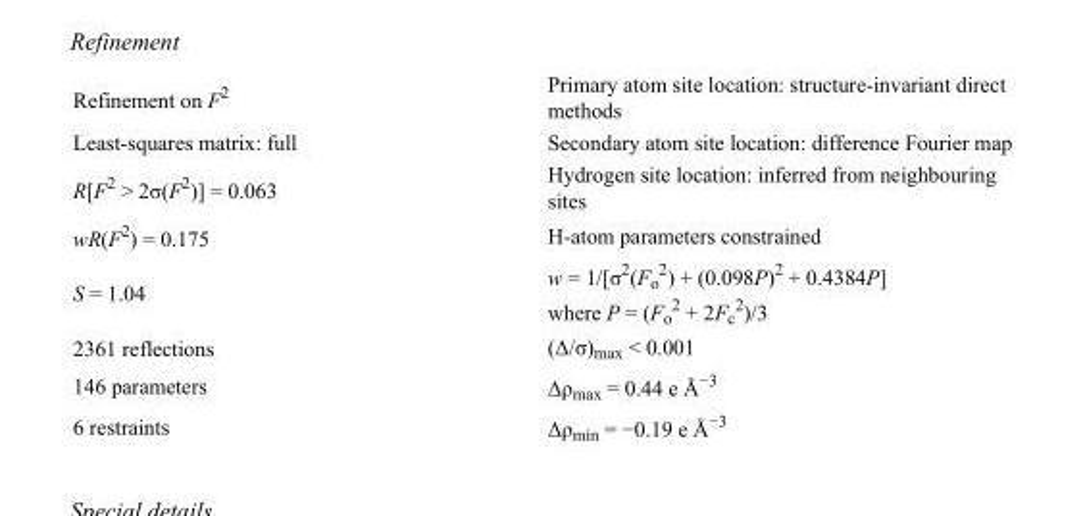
<table><tbody><tr><td>Refinement on F<sup>2</sup></td><td>Primary atom site location: structure-invariant direct methods</td></tr><tr><td>Least-squares matrix: full</td><td>Secondary atom site location: difference Fourier map</td></tr><tr><td>R[F<sup>2</sup> &gt; 2σ(F<sup>2</sup>)] = 0.063</td><td>Hydrogen site location: inferred from neighbouring sites</td></tr><tr><td>wR(F<sup>2</sup>) = 0.175</td><td>H-atom parameters constrained</td></tr><tr><td>S = 1.04</td><td>w = 1/[σ<sup>2</sup>(F<sub>o</sub> <sup>2</sup>) + (0.098P)<sup>2</sup> + 0.4384P] where P = (F<sub>o</sub> <sup>2</sup> + 2F<sub>c</sub> <sup>2</sup>)/3</td></tr><tr><td>2361 reflections</td><td>(Δ/σ)<sub>max</sub> &lt; 0.001</td></tr><tr><td>146 parameters</td><td>Δρ<sub>max</sub> = 0.44 e Å<sup>−3</sup></td></tr><tr><td>6 restraints</td><td>Δρ<sub>min</sub> = −0.19 e Å<sup>−3</sup></td></tr></tbody></table>